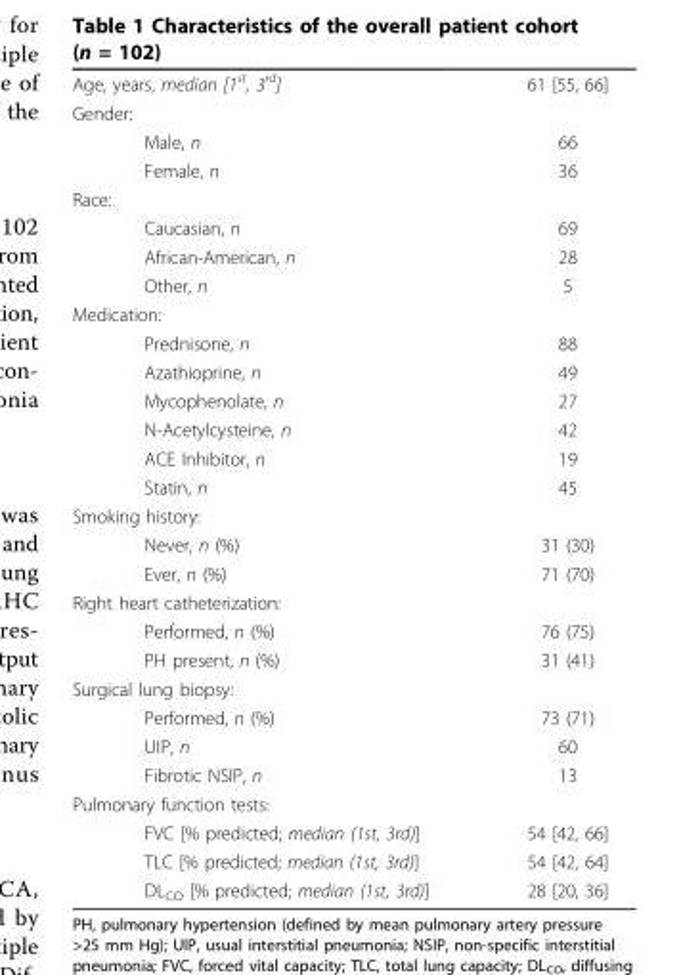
<table><tbody><tr><td>Age, years, median [1<sup>st</sup>, 3<sup>rd</sup>]</td><td>61 [55, 66]</td></tr><tr><td colspan="2">Gender:</td></tr><tr><td>Male, n</td><td>66</td></tr><tr><td>Female, n</td><td>36</td></tr><tr><td colspan="2">Race:</td></tr><tr><td>Caucasian, n</td><td>69</td></tr><tr><td>African-American, n</td><td>28</td></tr><tr><td>Other, n</td><td>5</td></tr><tr><td colspan="2">Medication:</td></tr><tr><td>Prednisone, n</td><td>88</td></tr><tr><td>Azathioprine, n</td><td>49</td></tr><tr><td>Mycophenolate, n</td><td>27</td></tr><tr><td>N-Acetylcysteine, n</td><td>42</td></tr><tr><td>ACE Inhibitor, n</td><td>19</td></tr><tr><td>Statin, n</td><td>45</td></tr><tr><td colspan="2">Smoking history:</td></tr><tr><td>Never, n (%)</td><td>31 (30)</td></tr><tr><td>Ever, n (%)</td><td>71 (70)</td></tr><tr><td colspan="2">Right heart catheterization:</td></tr><tr><td>Performed, n (%)</td><td>76 (75)</td></tr><tr><td>PH present, n (%)</td><td>31 (41)</td></tr><tr><td colspan="2">Surgical lung biopsy:</td></tr><tr><td>Performed, n (%)</td><td>73 (71)</td></tr><tr><td>UIP, n</td><td>60</td></tr><tr><td>Fibrotic NSIP, n</td><td>13</td></tr><tr><td colspan="2">Pulmonary function tests:</td></tr><tr><td>FVC [% predicted; median (1st, 3rd)]</td><td>54 [42, 66]</td></tr><tr><td>TLC [% predicted; median (1st, 3rd)]</td><td>54 [42, 64]</td></tr><tr><td>DL<sub>CO</sub> [% predicted; median (1st, 3rd)]</td><td>28 [20, 36]</td></tr></tbody></table>